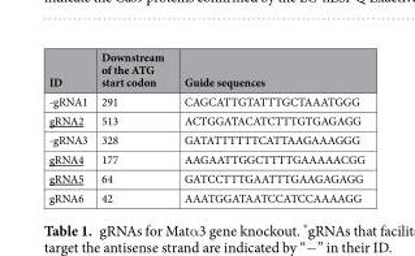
<table><thead><tr><td>ID</td><td>Downstream of the ATG start codon</td><td>Guide sequences</td></tr></thead><tbody><tr><td>-gRNA1</td><td>291</td><td>CAGCATTGTATTTGCTAAATGGG</td></tr><tr><td>gRNA2</td><td>513</td><td>ACTGGATACATCTTTGTGAGAGG</td></tr><tr><td>-gRNA3</td><td>328</td><td>GATATTTTTTCATTAAGAAAGGG</td></tr><tr><td>gRNA4</td><td>177</td><td>AAGAATTGGCTTTTGAAAAACGG</td></tr><tr><td>gRNA5</td><td>64</td><td>GATCCTTTGAATTTGAAGAGAGG</td></tr><tr><td>gRNA6</td><td>42</td><td>AAATGGATAATCCATCCAAAAGG</td></tr></tbody></table>